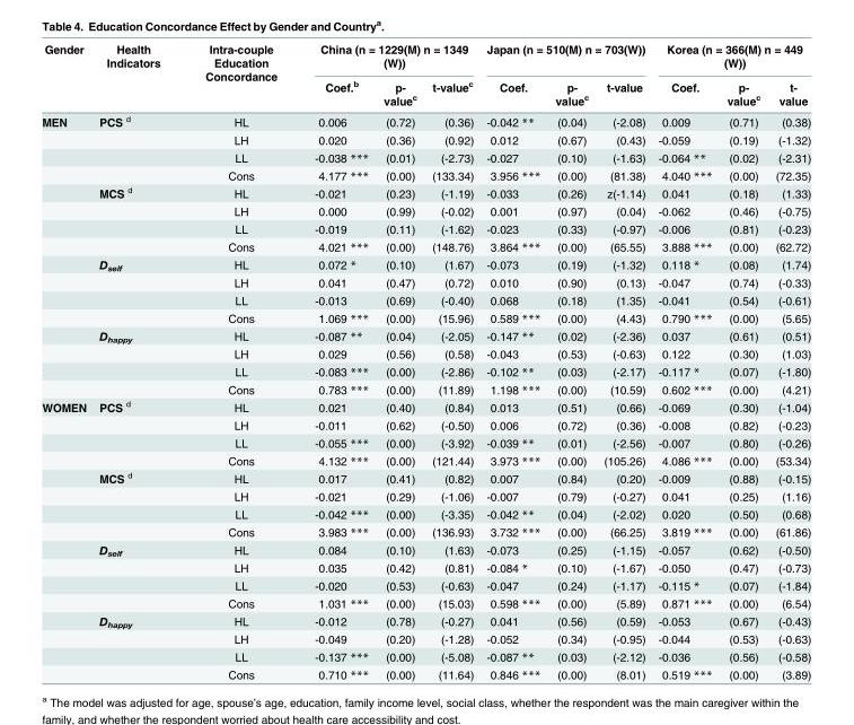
<table><thead><tr><td rowspan="2">Gender</td><td rowspan="2">Health Indicators</td><td rowspan="2">Intra-couple Education Concordance</td><td colspan="3">China (n = 1229(M) n = 1349 (W))</td><td colspan="3">Japan (n = 510(M) n = 703(W))</td><td colspan="3">Korea (n = 366(M) n = 449 (W))</td></tr><tr><td>Coef.<sup>b</sup></td><td>p- value<sup>c</sup></td><td>t-value<sup>c</sup></td><td>Coef.</td><td>p- value<sup>c</sup></td><td>t-value</td><td>Coef.</td><td>p- value<sup>c</sup></td><td>t- value</td></tr></thead><tbody><tr><td rowspan="16">MEN</td><td>PCS <sup>d</sup></td><td>HL</td><td>0.006</td><td>(0.72)</td><td>(0.36)</td><td>-0.042 **</td><td>(0.04)</td><td>(-2.08)</td><td>0.009</td><td>(0.71)</td><td>(0.38)</td></tr><tr><td></td><td>LH</td><td>0.020</td><td>(0.36)</td><td>(0.92)</td><td>0.012</td><td>(0.67)</td><td>(0.43)</td><td>-0.059</td><td>(0.19)</td><td>(-1.32)</td></tr><tr><td></td><td>LL</td><td>-0.038 ***</td><td>(0.01)</td><td>(-2.73)</td><td>-0.027</td><td>(0.10)</td><td>(-1.63)</td><td>-0.064 **</td><td>(0.02)</td><td>(-2.31)</td></tr><tr><td></td><td>Cons</td><td>4.177 ***</td><td>(0.00)</td><td>(133.34)</td><td>3.956 ***</td><td>(0.00)</td><td>(81.38)</td><td>4.040 ***</td><td>(0.00)</td><td>(72.35)</td></tr><tr><td>MCS <sup>d</sup></td><td>HL</td><td>-0.021</td><td>(0.23)</td><td>(-1.19)</td><td>-0.033</td><td>(0.26)</td><td>z(-1.14)</td><td>0.041</td><td>(0.18)</td><td>(1.33)</td></tr><tr><td></td><td>LH</td><td>0.000</td><td>(0.99)</td><td>(-0.02)</td><td>0.001</td><td>(0.97)</td><td>(0.04)</td><td>-0.062</td><td>(0.46)</td><td>(-0.75)</td></tr><tr><td></td><td>LL</td><td>-0.019</td><td>(0.11)</td><td>(-1.62)</td><td>-0.023</td><td>(0.33)</td><td>(-0.97)</td><td>-0.006</td><td>(0.81)</td><td>(-0.23)</td></tr><tr><td></td><td>Cons</td><td>4.021 ***</td><td>(0.00)</td><td>(148.76)</td><td>3.864 ***</td><td>(0.00)</td><td>(65.55)</td><td>3.888 ***</td><td>(0.00)</td><td>(62.72)</td></tr><tr><td>D<sub>self</sub></td><td>HL</td><td>0.072 *</td><td>(0.10)</td><td>(1.67)</td><td>-0.073</td><td>(0.19)</td><td>(-1.32)</td><td>0.118 *</td><td>(0.08)</td><td>(1.74)</td></tr><tr><td></td><td>LH</td><td>0.041</td><td>(0.47)</td><td>(0.72)</td><td>0.010</td><td>(0.90)</td><td>(0.13)</td><td>-0.047</td><td>(0.74)</td><td>(-0.33)</td></tr><tr><td></td><td>LL</td><td>-0.013</td><td>(0.69)</td><td>(-0.40)</td><td>0.068</td><td>(0.18)</td><td>(1.35)</td><td>-0.041</td><td>(0.54)</td><td>(-0.61)</td></tr><tr><td></td><td>Cons</td><td>1.069 ***</td><td>(0.00)</td><td>(15.96)</td><td>0.589 ***</td><td>(0.00)</td><td>(4.43)</td><td>0.790 ***</td><td>(0.00)</td><td>(5.65)</td></tr><tr><td>D<sub>happy</sub></td><td>HL</td><td>-0.087 **</td><td>(0.04)</td><td>(-2.05)</td><td>-0.147 **</td><td>(0.02)</td><td>(-2.36)</td><td>0.037</td><td>(0.61)</td><td>(0.51)</td></tr><tr><td></td><td>LH</td><td>0.029</td><td>(0.56)</td><td>(0.58)</td><td>-0.043</td><td>(0.53)</td><td>(-0.63)</td><td>0.122</td><td>(0.30)</td><td>(1.03)</td></tr><tr><td></td><td>LL</td><td>-0.083 ***</td><td>(0.00)</td><td>(-2.86)</td><td>-0.102 **</td><td>(0.03)</td><td>(-2.17)</td><td>-0.117 *</td><td>(0.07)</td><td>(-1.80)</td></tr><tr><td></td><td>Cons</td><td>0.783 ***</td><td>(0.00)</td><td>(11.89)</td><td>1.198 ***</td><td>(0.00)</td><td>(10.59)</td><td>0.602 ***</td><td>(0.00)</td><td>(4.21)</td></tr><tr><td rowspan="16">WOMEN</td><td>PCS <sup>d</sup></td><td>HL</td><td>0.021</td><td>(0.40)</td><td>(0.84)</td><td>0.013</td><td>(0.51)</td><td>(0.66)</td><td>-0.069</td><td>(0.30)</td><td>(-1.04)</td></tr><tr><td></td><td>LH</td><td>-0.011</td><td>(0.62)</td><td>(-0.50)</td><td>0.006</td><td>(0.72)</td><td>(0.36)</td><td>-0.008</td><td>(0.82)</td><td>(-0.23)</td></tr><tr><td></td><td>LL</td><td>-0.055 ***</td><td>(0.00)</td><td>(-3.92)</td><td>-0.039 **</td><td>(0.01)</td><td>(-2.56)</td><td>-0.007</td><td>(0.80)</td><td>(-0.26)</td></tr><tr><td></td><td>Cons</td><td>4.132 ***</td><td>(0.00)</td><td>(121.44)</td><td>3.973 ***</td><td>(0.00)</td><td>(105.26)</td><td>4.086 ***</td><td>(0.00)</td><td>(53.34)</td></tr><tr><td>MCS <sup>d</sup></td><td>HL</td><td>0.017</td><td>(0.41)</td><td>(0.82)</td><td>0.007</td><td>(0.84)</td><td>(0.20)</td><td>-0.009</td><td>(0.88)</td><td>(-0.15)</td></tr><tr><td></td><td>LH</td><td>-0.021</td><td>(0.29)</td><td>(-1.06)</td><td>-0.007</td><td>(0.79)</td><td>(-0.27)</td><td>0.041</td><td>(0.25)</td><td>(1.16)</td></tr><tr><td></td><td>LL</td><td>-0.042 ***</td><td>(0.00)</td><td>(-3.35)</td><td>-0.042 **</td><td>(0.04)</td><td>(-2.02)</td><td>0.020</td><td>(0.50)</td><td>(0.68)</td></tr><tr><td></td><td>Cons</td><td>3.983 ***</td><td>(0.00)</td><td>(136.93)</td><td>3.732 ***</td><td>(0.00)</td><td>(66.25)</td><td>3.819 ***</td><td>(0.00)</td><td>(61.86)</td></tr><tr><td>D<sub>self</sub></td><td>HL</td><td>0.084</td><td>(0.10)</td><td>(1.63)</td><td>-0.073</td><td>(0.25)</td><td>(-1.15)</td><td>-0.057</td><td>(0.62)</td><td>(-0.50)</td></tr><tr><td></td><td>LH</td><td>0.035</td><td>(0.42)</td><td>(0.81)</td><td>-0.084 *</td><td>(0.10)</td><td>(-1.67)</td><td>-0.050</td><td>(0.47)</td><td>(-0.73)</td></tr><tr><td></td><td>LL</td><td>-0.020</td><td>(0.53)</td><td>(-0.63)</td><td>-0.047</td><td>(0.24)</td><td>(-1.17)</td><td>-0.115 *</td><td>(0.07)</td><td>(-1.84)</td></tr><tr><td></td><td>Cons</td><td>1.031 ***</td><td>(0.00)</td><td>(15.03)</td><td>0.598 ***</td><td>(0.00)</td><td>(5.89)</td><td>0.871 ***</td><td>(0.00)</td><td>(6.54)</td></tr><tr><td>D<sub>happy</sub></td><td>HL</td><td>-0.012</td><td>(0.78)</td><td>(-0.27)</td><td>0.041</td><td>(0.56)</td><td>(0.59)</td><td>-0.053</td><td>(0.67)</td><td>(-0.43)</td></tr><tr><td></td><td>LH</td><td>-0.049</td><td>(0.20)</td><td>(-1.28)</td><td>-0.052</td><td>(0.34)</td><td>(-0.95)</td><td>-0.044</td><td>(0.53)</td><td>(-0.63)</td></tr><tr><td></td><td>LL</td><td>-0.137 ***</td><td>(0.00)</td><td>(-5.08)</td><td>-0.087 **</td><td>(0.03)</td><td>(-2.12)</td><td>-0.036</td><td>(0.56)</td><td>(-0.58)</td></tr><tr><td></td><td>Cons</td><td>0.710 ***</td><td>(0.00)</td><td>(11.64)</td><td>0.846 ***</td><td>(0.00)</td><td>(8.01)</td><td>0.519 ***</td><td>(0.00)</td><td>(3.89)</td></tr></tbody></table>